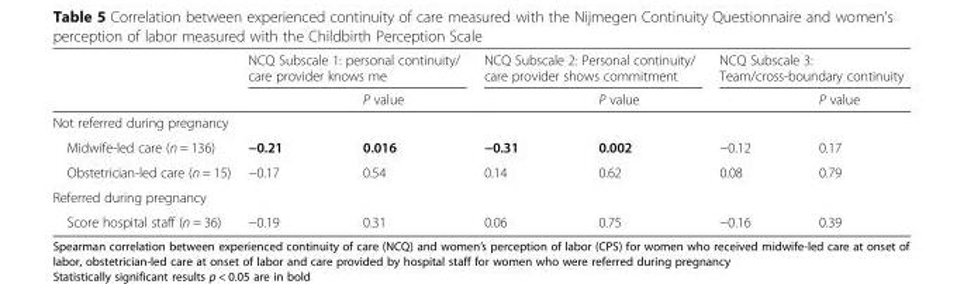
<table><thead><tr><td rowspan="2"></td><td colspan="2">NCQ Subscale 1: personal continuity/ care provider knows me</td><td colspan="2">NCQ Subscale 2: Personal continuity/ care provider shows commitment</td><td colspan="2">NCQ Subscale 3: Team/cross-boundary continuity</td></tr><tr><td></td><td>P value</td><td></td><td>P value</td><td></td><td>P value</td></tr></thead><tbody><tr><td colspan="7">Not referred during pregnancy</td></tr><tr><td>Midwife-led care (n = 136)</td><td>−0.21</td><td>0.016</td><td>−0.31</td><td>0.002</td><td>−0.12</td><td>0.17</td></tr><tr><td>Obstetrician-led care (n = 15)</td><td>−0.17</td><td>0.54</td><td>0.14</td><td>0.62</td><td>0.08</td><td>0.79</td></tr><tr><td colspan="7">Referred during pregnancy</td></tr><tr><td>Score hospital staff (n = 36)</td><td>−0.19</td><td>0.31</td><td>0.06</td><td>0.75</td><td>−0.16</td><td>0.39</td></tr></tbody></table>